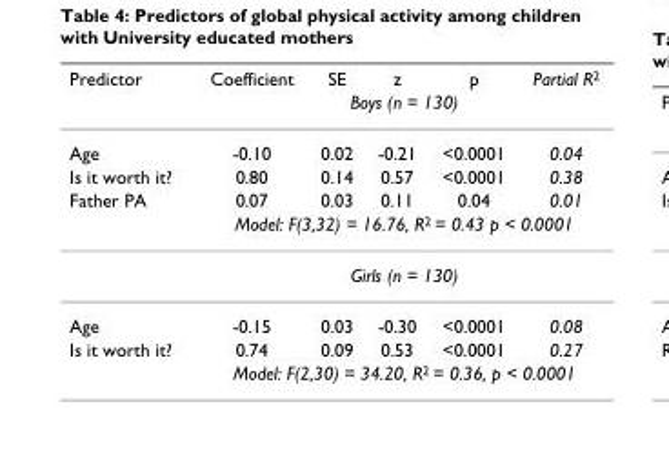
<table><thead><tr><td rowspan="2">Predictor</td><td>Coefficient</td><td>SE</td><td>z</td><td>p</td><td>Partial R<sup>2</sup></td></tr><tr><td colspan="5">Boys (n = 130)</td></tr></thead><tbody><tr><td>Age</td><td>-0.10</td><td>0.02</td><td>-0.21</td><td>&lt;0.0001</td><td>0.04</td></tr><tr><td>Is it worth it?</td><td>0.80</td><td>0.14</td><td>0.57</td><td>&lt;0.0001</td><td>0.38</td></tr><tr><td rowspan="3">Father PA</td><td>0.07</td><td>0.03</td><td>0.11</td><td>0.04</td><td>0.01</td></tr><tr><td colspan="5">Model: F(3,32) = 16.76, R<sup>2</sup> = 0.43 p &lt; 0.0001</td></tr><tr><td colspan="5">Girls (n = 130)</td></tr><tr><td>Age</td><td>-0.15</td><td>0.03</td><td>-0.30</td><td>&lt;0.0001</td><td>0.08</td></tr><tr><td rowspan="2">Is it worth it?</td><td>0.74</td><td>0.09</td><td>0.53</td><td>&lt;0.0001</td><td>0.27</td></tr><tr><td colspan="5">Model: F(2,30) = 34.20, R<sup>2</sup> = 0.36, p &lt; 0.0001</td></tr></tbody></table>